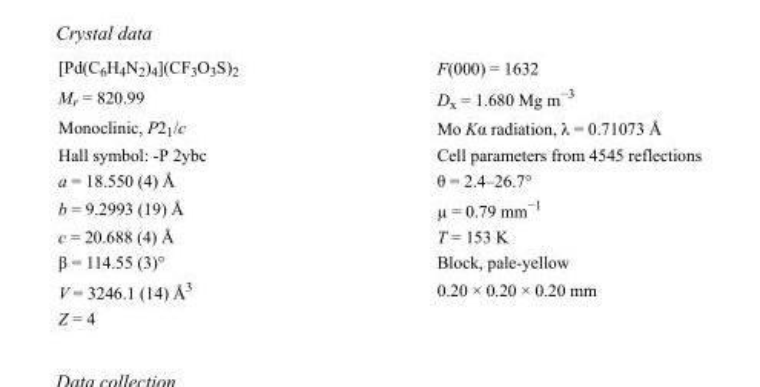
<table><tbody><tr><td>[Pd(C<sub>6</sub>H<sub>4</sub>N<sub>2</sub>)<sub>4</sub>](CF<sub>3</sub>O<sub>3</sub>S)<sub>2</sub></td><td>F(000) = 1632</td></tr><tr><td>M<sub>r</sub> = 820.99</td><td>D<sub>x</sub> = 1.680 Mg m<sup>−3</sup></td></tr><tr><td>Monoclinic, P2<sub>1</sub>/c</td><td>Mo Kα radiation, λ = 0.71073 Å</td></tr><tr><td>Hall symbol: -P 2ybc</td><td>Cell parameters from 4545 reflections</td></tr><tr><td>a = 18.550 (4) Å</td><td>θ = 2.4–26.7°</td></tr><tr><td>b = 9.2993 (19) Å</td><td>µ = 0.79 mm<sup>−1</sup></td></tr><tr><td>c = 20.688 (4) Å</td><td>T = 153 K</td></tr><tr><td>β = 114.55 (3)°</td><td>Block, pale-yellow</td></tr><tr><td>V = 3246.1 (14) Å<sup>3</sup></td><td>0.20 × 0.20 × 0.20 mm</td></tr><tr><td>Z = 4</td><td></td></tr></tbody></table>